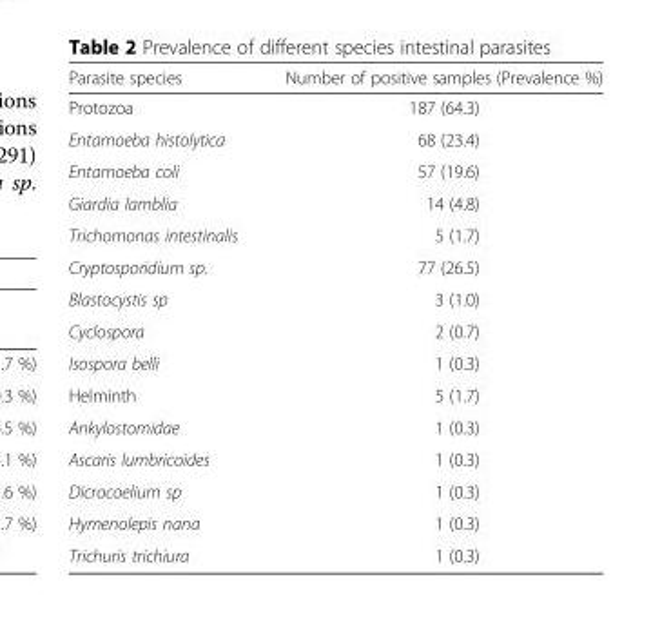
<table><thead><tr><td>Parasite species</td><td>Number of positive samples (Prevalence %)</td></tr></thead><tbody><tr><td>Protozoa</td><td>187 (64.3)</td></tr><tr><td>Entamoeba histolytica</td><td>68 (23.4)</td></tr><tr><td>Entamoeba coli</td><td>57 (19.6)</td></tr><tr><td>Giardia lamblia</td><td>14 (4.8)</td></tr><tr><td>Trichomonas intestinalis</td><td>5 (1.7)</td></tr><tr><td>Cryptosporidium sp.</td><td>77 (26.5)</td></tr><tr><td>Blastocystis sp</td><td>3 (1.0)</td></tr><tr><td>Cyclospora</td><td>2 (0.7)</td></tr><tr><td>Isospora belli</td><td>1 (0.3)</td></tr><tr><td>Helminth</td><td>5 (1.7)</td></tr><tr><td>Ankylostomidae</td><td>1 (0.3)</td></tr><tr><td>Ascaris lumbricoides</td><td>1 (0.3)</td></tr><tr><td>Dicrocoelium sp</td><td>1 (0.3)</td></tr><tr><td>Hymenolepis nana</td><td>1 (0.3)</td></tr><tr><td>Trichuris trichiura</td><td>1 (0.3)</td></tr></tbody></table>